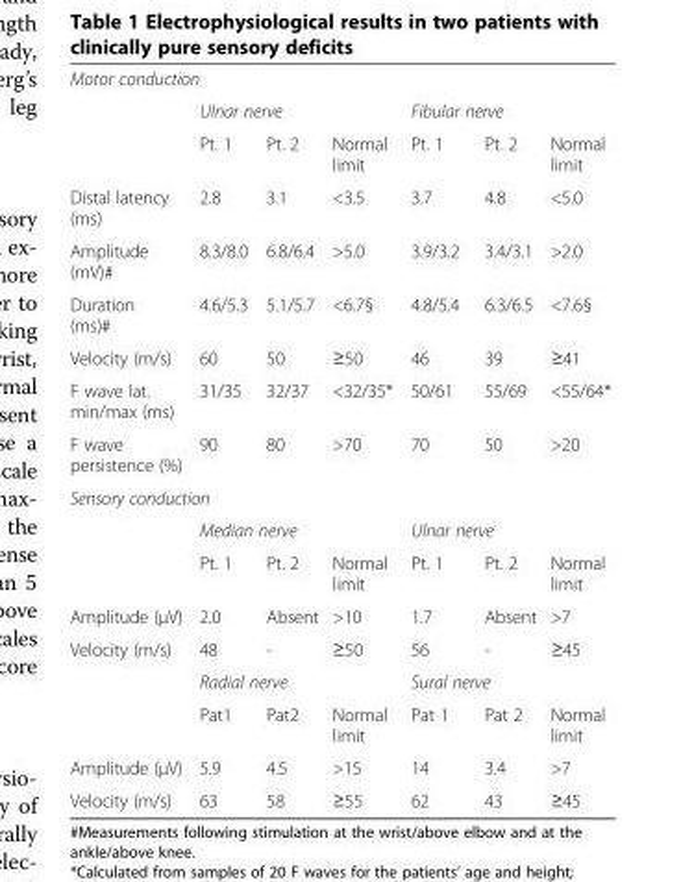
<table><tbody><tr><td colspan="7">Motor conduction</td></tr><tr><td></td><td colspan="3">Ulnar nerve</td><td colspan="3">Fibular nerve</td></tr><tr><td></td><td>Pt. 1</td><td>Pt. 2</td><td>Normal limit</td><td>Pt. 1</td><td>Pt. 2</td><td>Normal limit</td></tr><tr><td>Distal latency (ms)</td><td>2.8</td><td>3.1</td><td>&lt;3.5</td><td>3.7</td><td>4.8</td><td>&lt;5.0</td></tr><tr><td>Amplitude (mV)#</td><td>8.3/8.0</td><td>6.8/6.4</td><td>&gt;5.0</td><td>3.9/3.2</td><td>3.4/3.1</td><td>&gt;2.0</td></tr><tr><td>Duration (ms)#</td><td>4.6/5.3</td><td>5.1/5.7</td><td>&lt;6.7§</td><td>4.8/5.4</td><td>6.3/6.5</td><td>&lt;7.6§</td></tr><tr><td>Velocity (m/s)</td><td>60</td><td>50</td><td>≥50</td><td>46</td><td>39</td><td>≥41</td></tr><tr><td>F wave lat. min/max (ms)</td><td>31/35</td><td>32/37</td><td>&lt;32/35*</td><td>50/61</td><td>55/69</td><td>&lt;55/64*</td></tr><tr><td>F wave persistence (%)</td><td>90</td><td>80</td><td>&gt;70</td><td>70</td><td>50</td><td>&gt;20</td></tr><tr><td colspan="7">Sensory conduction</td></tr><tr><td></td><td colspan="3">Median nerve</td><td colspan="3">Ulnar nerve</td></tr><tr><td></td><td>Pt. 1</td><td>Pt. 2</td><td>Normal limit</td><td>Pt. 1</td><td>Pt. 2</td><td>Normal limit</td></tr><tr><td>Amplitude (μV)</td><td>2.0</td><td>Absent</td><td>&gt;10</td><td>1.7</td><td>Absent</td><td>&gt;7</td></tr><tr><td rowspan="3">Velocity (m/s)</td><td>48</td><td>-</td><td>≥50</td><td>56</td><td>-</td><td>≥45</td></tr><tr><td colspan="3">Radial nerve</td><td colspan="3">Sural nerve</td></tr><tr><td>Pat1</td><td>Pat2</td><td>Normal limit</td><td>Pat 1</td><td>Pat 2</td><td>Normal limit</td></tr><tr><td>Amplitude (μV)</td><td>5.9</td><td>4.5</td><td>&gt;15</td><td>14</td><td>3.4</td><td>&gt;7</td></tr><tr><td>Velocity (m/s)</td><td>63</td><td>58</td><td>≥55</td><td>62</td><td>43</td><td>≥45</td></tr></tbody></table>